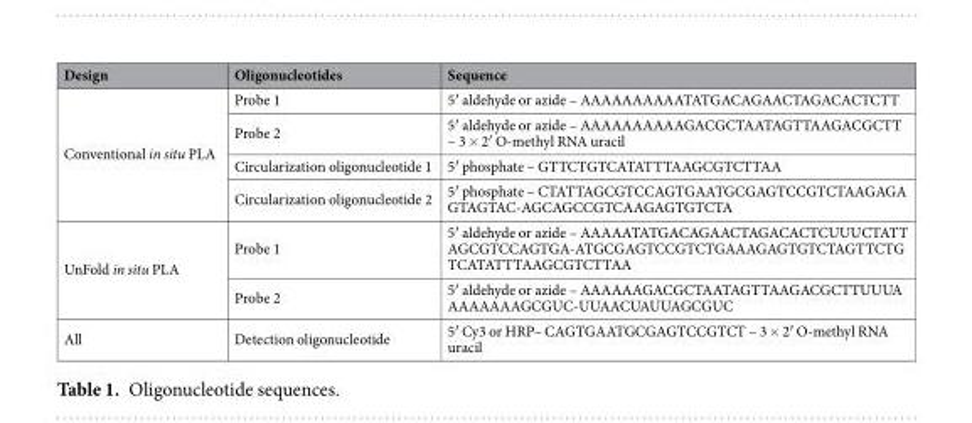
<table><thead><tr><td>Design</td><td>Oligonucleotides</td><td>Sequence</td></tr></thead><tbody><tr><td rowspan="4">Conventional in situ PLA</td><td>Probe 1</td><td>5′ aldehyde or azide – AAAAAAAAAATATGACAGAACTAGACACTCTT</td></tr><tr><td>Probe 2</td><td>5′ aldehyde or azide – AAAAAAAAAAGACGCTAATAGTTAAGACGCTT – 3 × 2′ O-methyl RNA uracil</td></tr><tr><td>Circularization oligonucleotide 1</td><td>5′ phosphate – GTTCTGTCATATTTAAGCGTCTTAA</td></tr><tr><td>Circularization oligonucleotide 2</td><td>5′ phosphate – CTATTAGCGTCCAGTGAATGCGAGTCCGTCTAAGAGA GTAGTAC-AGCAGCCGTCAAGAGTGTCTA</td></tr><tr><td rowspan="2">UnFold in situ PLA</td><td>Probe 1</td><td>5′ aldehyde or azide – AAAAATATGACAGAACTAGACACTCUUUCTATT AGCGTCCAGTGA-ATGCGAGTCCGTCTGAAAGAGTGTCTAGTTCTG TCATATTTAAGCGTCTTAA</td></tr><tr><td>Probe 2</td><td>5′ aldehyde or azide – AAAAAAGACGCTAATAGTTAAGACGCTTUUUA AAAAAAAGCGUC-UUAACUAUUAGCGUC</td></tr><tr><td>All</td><td>Detection oligonucleotide</td><td>5′ Cy3 or HRP– CAGTGAATGCGAGTCCGTCT – 3 × 2′ O-methyl RNA uracil</td></tr></tbody></table>